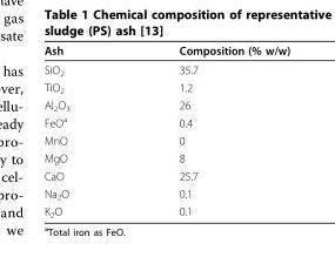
<table><thead><tr><td>Ash</td><td>Composition (% w/w)</td></tr></thead><tbody><tr><td>SiO<sub>2</sub></td><td>35.7</td></tr><tr><td>TiO<sub>2</sub></td><td>1.2</td></tr><tr><td>Al<sub>2</sub>O<sub>3</sub></td><td>26</td></tr><tr><td>FeO<sup>a</sup></td><td>0.4</td></tr><tr><td>MnO</td><td>0</td></tr><tr><td>MgO</td><td>8</td></tr><tr><td>CaO</td><td>25.7</td></tr><tr><td>Na<sub>2</sub>O</td><td>0.1</td></tr><tr><td>K<sub>2</sub>O</td><td>0.1</td></tr></tbody></table>